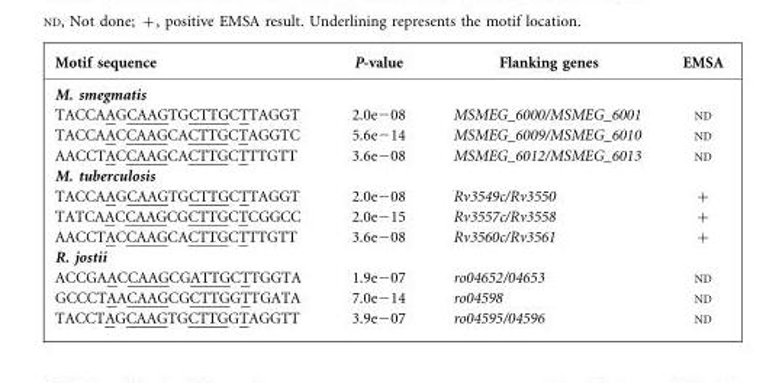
<table><thead><tr><td>Motif sequence</td><td>P-value</td><td>Flanking genes</td><td>EMSA</td></tr></thead><tbody><tr><td colspan="4">M. smegmatis</td></tr><tr><td>TACCAAGCAAGTGCTTGCTTAGGT</td><td>2.0e−08</td><td>MSMEG_6000/MSMEG_6001</td><td>ND</td></tr><tr><td>TACCAACCAAGCACTTGCTAGGTC</td><td>5.6e−14</td><td>MSMEG_6009/MSMEG_6010</td><td>ND</td></tr><tr><td>AACCTACCAAGCACTTGCTTTGTT</td><td>3.6e−08</td><td>MSMEG_6012/MSMEG_6013</td><td>ND</td></tr><tr><td colspan="4">M. tuberculosis</td></tr><tr><td>TACCAAGCAAGTGCTTGCTTAGGT</td><td>2.0e−08</td><td>Rv3549c/Rv3550</td><td>+</td></tr><tr><td>TATCAACCAAGCGCTTGCTCGGCC</td><td>2.0e−15</td><td>Rv3557c/Rv3558</td><td>+</td></tr><tr><td>AACCTACCAAGCACTTGCTTTGTT</td><td>3.6e−08</td><td>Rv3560c/Rv3561</td><td>+</td></tr><tr><td colspan="4">R. jostii</td></tr><tr><td>ACCGAACCAAGCGATTGCTTGGTA</td><td>1.9e−07</td><td>ro04652/04653</td><td>ND</td></tr><tr><td>GCCCTAACAAGCGCTTGGTTGATA</td><td>7.0e−14</td><td>ro04598</td><td>ND</td></tr><tr><td>TACCTAGCAAGTGCTTGGTAGGTT</td><td>3.9e−07</td><td>ro04595/04596</td><td>ND</td></tr></tbody></table>